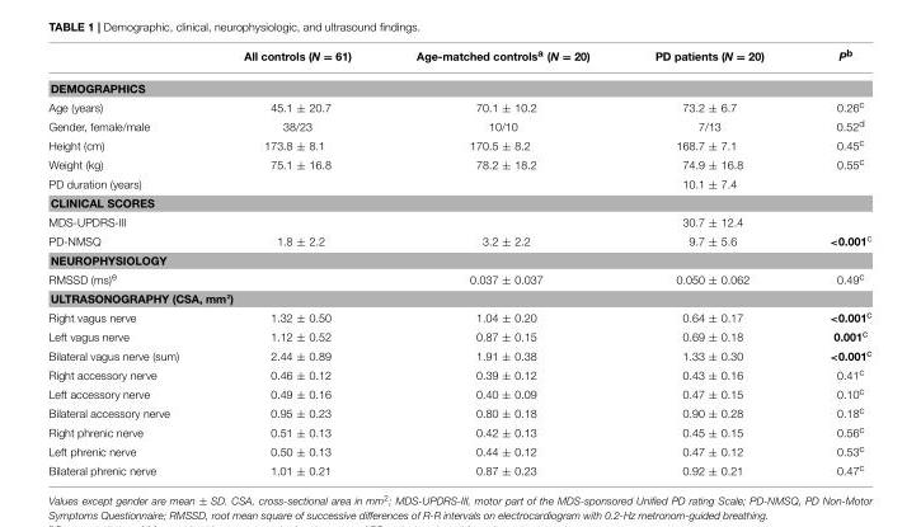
<table><thead><tr><td></td><td>All controls (N = 61)</td><td>Age-matched controls<sup>a</sup> (N = 20)</td><td>PD patients (N = 20)</td><td>P<sup>b</sup></td></tr></thead><tbody><tr><td colspan="5">DEMOGRAPHICS</td></tr><tr><td>Age (years)</td><td>45.1 ± 20.7</td><td>70.1 ± 10.2</td><td>73.2 ± 6.7</td><td>0.26<sup>c</sup></td></tr><tr><td>Gender, female/male</td><td>38/23</td><td>10/10</td><td>7/13</td><td>0.52<sup>d</sup></td></tr><tr><td>Height (cm)</td><td>173.8 ± 8.1</td><td>170.5 ± 8.2</td><td>168.7 ± 7.1</td><td>0.45<sup>c</sup></td></tr><tr><td>Weight (kg)</td><td>75.1 ± 16.8</td><td>78.2 ± 18.2</td><td>74.9 ± 16.8</td><td>0.55<sup>c</sup></td></tr><tr><td>PD duration (years)</td><td></td><td></td><td>10.1 ± 7.4</td><td></td></tr><tr><td colspan="5">CLINICAL SCORES</td></tr><tr><td>MDS-UPDRS-III</td><td></td><td></td><td>30.7 ± 12.4</td><td></td></tr><tr><td>PD-NMSQ</td><td>1.8 ± 2.2</td><td>3.2 ± 2.2</td><td>9.7 ± 5.6</td><td>&lt;0.001<sup>c</sup></td></tr><tr><td colspan="5">NEUROPHYSIOLOGY</td></tr><tr><td>RMSSD (ms)<sup>e</sup></td><td></td><td>0.037 ± 0.037</td><td>0.050 ± 0.062</td><td>0.49<sup>c</sup></td></tr><tr><td colspan="5">ULTRASONOGRAPHY (CSA, mm²)</td></tr><tr><td>Right vagus nerve</td><td>1.32 ± 0.50</td><td>1.04 ± 0.20</td><td>0.64 ± 0.17</td><td>&lt;0.001<sup>c</sup></td></tr><tr><td>Left vagus nerve</td><td>1.12 ± 0.52</td><td>0.87 ± 0.15</td><td>0.69 ± 0.18</td><td>0.001<sup>c</sup></td></tr><tr><td>Bilateral vagus nerve (sum)</td><td>2.44 ± 0.89</td><td>1.91 ± 0.38</td><td>1.33 ± 0.30</td><td>&lt;0.001<sup>c</sup></td></tr><tr><td>Right accessory nerve</td><td>0.46 ± 0.12</td><td>0.39 ± 0.12</td><td>0.43 ± 0.16</td><td>0.41<sup>c</sup></td></tr><tr><td>Left accessory nerve</td><td>0.49 ± 0.16</td><td>0.40 ± 0.09</td><td>0.47 ± 0.15</td><td>0.10<sup>c</sup></td></tr><tr><td>Bilateral accessory nerve</td><td>0.95 ± 0.23</td><td>0.80 ± 0.18</td><td>0.90 ± 0.28</td><td>0.18<sup>c</sup></td></tr><tr><td>Right phrenic nerve</td><td>0.51 ± 0.13</td><td>0.42 ± 0.13</td><td>0.45 ± 0.15</td><td>0.56<sup>c</sup></td></tr><tr><td>Left phrenic nerve</td><td>0.50 ± 0.13</td><td>0.44 ± 0.12</td><td>0.47 ± 0.12</td><td>0.53<sup>c</sup></td></tr><tr><td>Bilateral phrenic nerve</td><td>1.01 ± 0.21</td><td>0.87 ± 0.23</td><td>0.92 ± 0.21</td><td>0.47<sup>c</sup></td></tr></tbody></table>